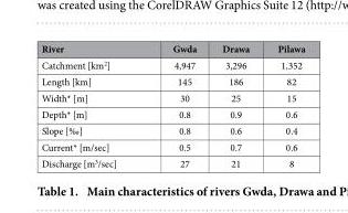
<table><thead><tr><td>River</td><td>Gwda</td><td>Drawa</td><td>Pilawa</td></tr></thead><tbody><tr><td>Catchment [km<sup>2</sup>]</td><td>4,947</td><td>3,296</td><td>1,352</td></tr><tr><td>Length [km]</td><td>145</td><td>186</td><td>82</td></tr><tr><td>Width* [m]</td><td>30</td><td>25</td><td>15</td></tr><tr><td>Depth* [m]</td><td>0.8</td><td>0.9</td><td>0.6</td></tr><tr><td>Slope [‰]</td><td>0.8</td><td>0.6</td><td>0.4</td></tr><tr><td>Current* [m/sec]</td><td>0.5</td><td>0.7</td><td>0.6</td></tr><tr><td>Discharge [m<sup>3</sup>/sec]</td><td>27</td><td>21</td><td>8</td></tr></tbody></table>